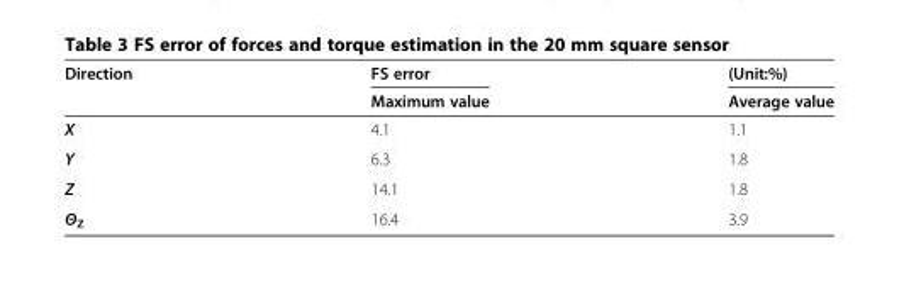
<table><thead><tr><td rowspan="2">Direction</td><td rowspan="2">FS error Maximum value</td><td rowspan="2">(Unit:%) Average value</td></tr><tr></tr></thead><tbody><tr><td>X</td><td>4.1</td><td>1.1</td></tr><tr><td>Y</td><td>6.3</td><td>1.8</td></tr><tr><td>Z</td><td>14.1</td><td>1.8</td></tr><tr><td>Θ<sub>Z</sub></td><td>16.4</td><td>3.9</td></tr></tbody></table>